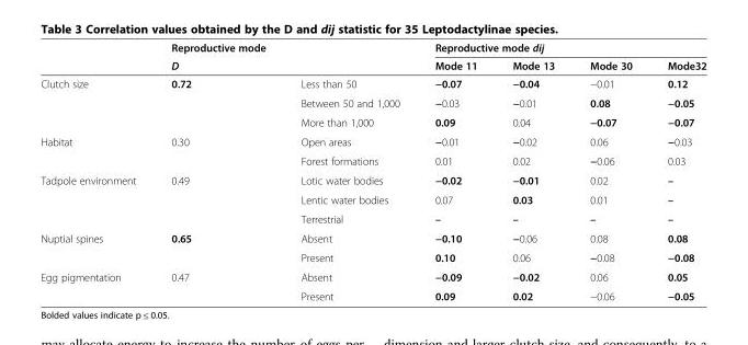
<table><thead><tr><td rowspan="2"></td><td rowspan="2">Reproductive mode D</td><td rowspan="2"></td><td colspan="4">Reproductive mode dij</td></tr><tr><td>Mode 11</td><td>Mode 13</td><td>Mode 30</td><td>Mode32</td></tr></thead><tbody><tr><td rowspan="3">Clutch size</td><td rowspan="3">0.72</td><td>Less than 50</td><td>−0.07</td><td>−0.04</td><td>−0.01</td><td>0.12</td></tr><tr><td>Between 50 and 1,000</td><td>−0.03</td><td>−0.01</td><td>0.08</td><td>−0.05</td></tr><tr><td>More than 1,000</td><td>0.09</td><td>0.04</td><td>−0.07</td><td>−0.07</td></tr><tr><td rowspan="2">Habitat</td><td rowspan="2">0.30</td><td>Open areas</td><td>−0.01</td><td>−0.02</td><td>0.06</td><td>−0.03</td></tr><tr><td>Forest formations</td><td>0.01</td><td>0.02</td><td>−0.06</td><td>0.03</td></tr><tr><td rowspan="3">Tadpole environment</td><td rowspan="3">0.49</td><td>Lotic water bodies</td><td>−0.02</td><td>−0.01</td><td>0.02</td><td>–</td></tr><tr><td>Lentic water bodies</td><td>0.07</td><td>0.03</td><td>0.01</td><td>–</td></tr><tr><td>Terrestrial</td><td>–</td><td>–</td><td>–</td><td>–</td></tr><tr><td rowspan="2">Nuptial spines</td><td rowspan="2">0.65</td><td>Absent</td><td>−0.10</td><td>−0.06</td><td>0.08</td><td>0.08</td></tr><tr><td>Present</td><td>0.10</td><td>0.06</td><td>−0.08</td><td>−0.08</td></tr><tr><td rowspan="2">Egg pigmentation</td><td rowspan="2">0.47</td><td>Absent</td><td>−0.09</td><td>−0.02</td><td>0.06</td><td>0.05</td></tr><tr><td>Present</td><td>0.09</td><td>0.02</td><td>−0.06</td><td>−0.05</td></tr></tbody></table>